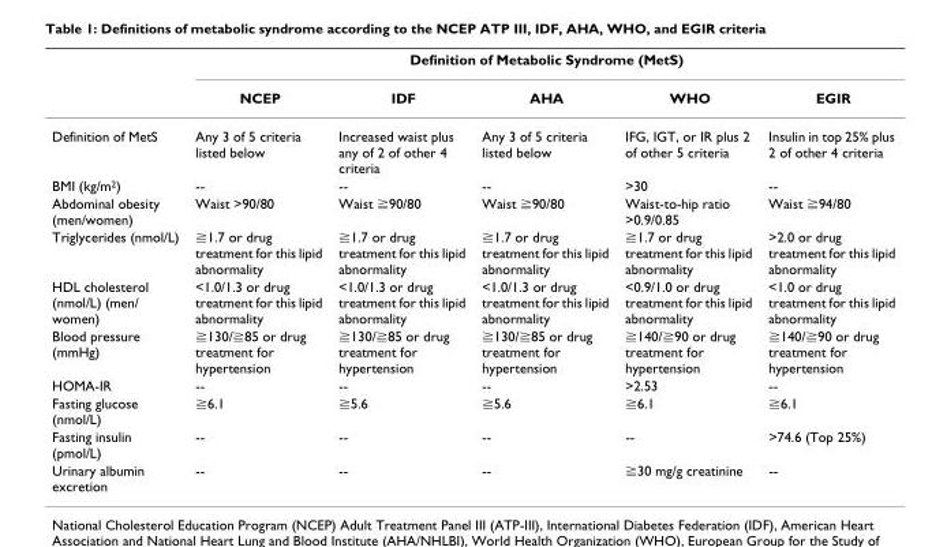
<table><thead><tr><td rowspan="2"></td><td colspan="5">Definition of Metabolic Syndrome (MetS)</td></tr><tr><td>NCEP</td><td>IDF</td><td>AHA</td><td>WHO</td><td>EGIR</td></tr></thead><tbody><tr><td>Definition of MetS</td><td>Any 3 of 5 criteria listed below</td><td>Increased waist plus any of 2 of other 4 criteria</td><td>Any 3 of 5 criteria listed below</td><td>IFG, IGT, or IR plus 2 of other 5 criteria</td><td>Insulin in top 25% plus 2 of other 4 criteria</td></tr><tr><td>BMI (kg/m<sup>2</sup>)</td><td>--</td><td>--</td><td>--</td><td>&gt;30</td><td>--</td></tr><tr><td>Abdominal obesity (men/women)</td><td>Waist &gt;90/80</td><td>Waist ≧90/80</td><td>Waist ≧90/80</td><td>Waist-to-hip ratio &gt;0.9/0.85</td><td>Waist ≧94/80</td></tr><tr><td>Triglycerides (nmol/L)</td><td>≧1.7 or drug treatment for this lipid abnormality</td><td>≧1.7 or drug treatment for this lipid abnormality</td><td>≧1.7 or drug treatment for this lipid abnormality</td><td>≧1.7 or drug treatment for this lipid abnormality</td><td>&gt;2.0 or drug treatment for this lipid abnormality</td></tr><tr><td>HDL cholesterol (nmol/L) (men/ women)</td><td>&lt;1.0/1.3 or drug treatment for this lipid abnormality</td><td>&lt;1.0/1.3 or drug treatment for this lipid abnormality</td><td>&lt;1.0/1.3 or drug treatment for this lipid abnormality</td><td>&lt;0.9/1.0 or drug treatment for this lipid abnormality</td><td>&lt;1.0 or drug treatment for this lipid abnormality</td></tr><tr><td>Blood pressure (mmHg)</td><td>≧130/≧85 or drug treatment for hypertension</td><td>≧130/≧85 or drug treatment for hypertension</td><td>≧130/≧85 or drug treatment for hypertension</td><td>≧140/≧90 or drug treatment for hypertension</td><td>≧140/≧90 or drug treatment for hypertension</td></tr><tr><td>HOMA-IR</td><td>--</td><td>--</td><td>--</td><td>&gt;2.53</td><td>--</td></tr><tr><td>Fasting glucose (nmol/L)</td><td>≧6.1</td><td>≧5.6</td><td>≧5.6</td><td>≧6.1</td><td>≧6.1</td></tr><tr><td>Fasting insulin (pmol/L)</td><td>--</td><td>--</td><td>--</td><td>--</td><td>&gt;74.6 (Top 25%)</td></tr><tr><td>Urinary albumin excretion</td><td>--</td><td>--</td><td>--</td><td>≧30 mg/g creatinine</td><td>--</td></tr></tbody></table>